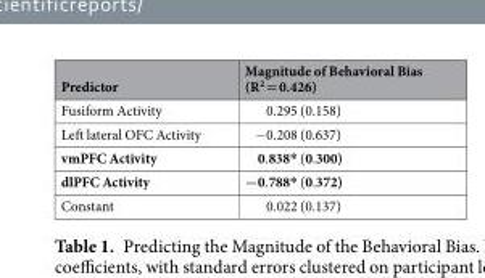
<table><thead><tr><td>Predictor</td><td>Magnitude of Behavioral Bias (R<sup>2</sup> = 0.426)</td></tr></thead><tbody><tr><td>Fusiform Activity</td><td>0.295 (0.158)</td></tr><tr><td>Left lateral OFC Activity</td><td>−0.208 (0.637)</td></tr><tr><td>vmPFC Activity</td><td>0.838* (0.300)</td></tr><tr><td>dlPFC Activity</td><td>−0.788* (0.372)</td></tr><tr><td>Constant</td><td>0.022 (0.137)</td></tr></tbody></table>